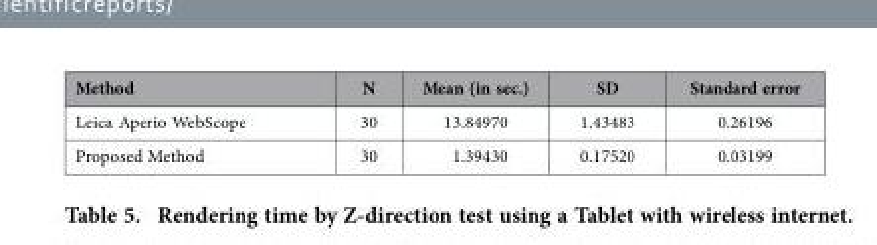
<table><thead><tr><td>Method</td><td>N</td><td>Mean (in sec.)</td><td>SD</td><td>Standard error</td></tr></thead><tbody><tr><td>Leica Aperio WebScope</td><td>30</td><td>13.84970</td><td>1.43483</td><td>0.26196</td></tr><tr><td>Proposed Method</td><td>30</td><td>1.39430</td><td>0.17520</td><td>0.03199</td></tr></tbody></table>